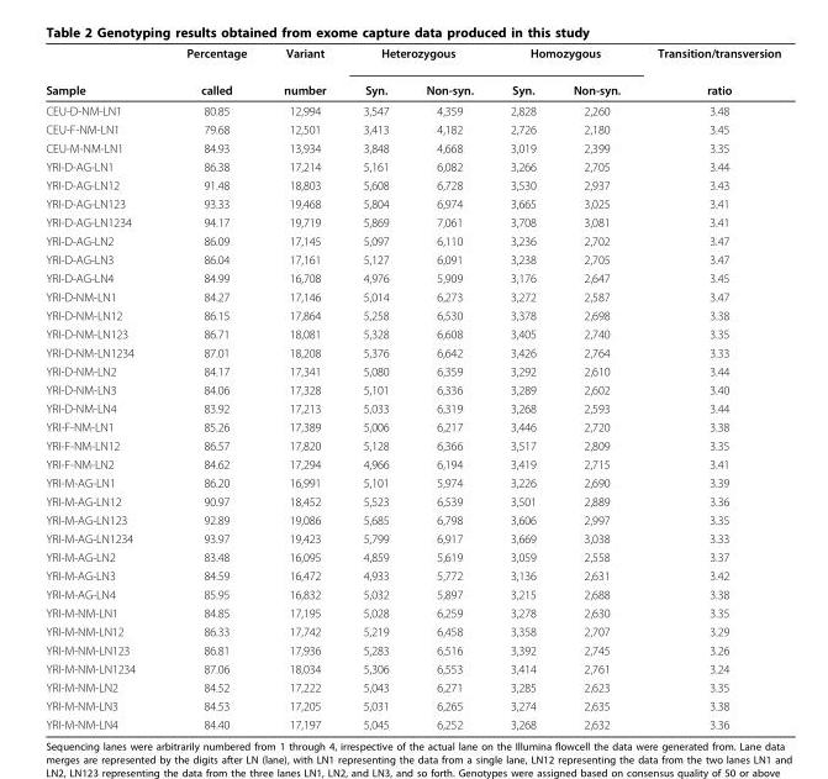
<table><thead><tr><td rowspan="2">Sample</td><td rowspan="2">Percentage called</td><td rowspan="2">Variant number</td><td colspan="2">Heterozygous</td><td colspan="2">Homozygous</td><td rowspan="2">Transition/transversion ratio</td></tr><tr><td>Syn.</td><td>Non-syn.</td><td>Syn.</td><td>Non-syn.</td></tr></thead><tbody><tr><td>CEU-D-NM-LN1</td><td>80.85</td><td>12,994</td><td>3,547</td><td>4,359</td><td>2,828</td><td>2,260</td><td>3.48</td></tr><tr><td>CEU-F-NM-LN1</td><td>79.68</td><td>12,501</td><td>3,413</td><td>4,182</td><td>2,726</td><td>2,180</td><td>3.45</td></tr><tr><td>CEU-M-NM-LN1</td><td>84.93</td><td>13,934</td><td>3,848</td><td>4,668</td><td>3,019</td><td>2,399</td><td>3.35</td></tr><tr><td>YRI-D-AG-LN1</td><td>86.38</td><td>17,214</td><td>5,161</td><td>6,082</td><td>3,266</td><td>2,705</td><td>3.44</td></tr><tr><td>YRI-D-AG-LN12</td><td>91.48</td><td>18,803</td><td>5,608</td><td>6,728</td><td>3,530</td><td>2,937</td><td>3.43</td></tr><tr><td>YRI-D-AG-LN123</td><td>93.33</td><td>19,468</td><td>5,804</td><td>6,974</td><td>3,665</td><td>3,025</td><td>3.41</td></tr><tr><td>YRI-D-AG-LN1234</td><td>94.17</td><td>19,719</td><td>5,869</td><td>7,061</td><td>3,708</td><td>3,081</td><td>3.41</td></tr><tr><td>YRI-D-AG-LN2</td><td>86.09</td><td>17,145</td><td>5,097</td><td>6,110</td><td>3,236</td><td>2,702</td><td>3.47</td></tr><tr><td>YRI-D-AG-LN3</td><td>86.04</td><td>17,161</td><td>5,127</td><td>6,091</td><td>3,238</td><td>2,705</td><td>3.47</td></tr><tr><td>YRI-D-AG-LN4</td><td>84.99</td><td>16,708</td><td>4,976</td><td>5,909</td><td>3,176</td><td>2,647</td><td>3.45</td></tr><tr><td>YRI-D-NM-LN1</td><td>84.27</td><td>17,146</td><td>5,014</td><td>6,273</td><td>3,272</td><td>2,587</td><td>3.47</td></tr><tr><td>YRI-D-NM-LN12</td><td>86.15</td><td>17,864</td><td>5,258</td><td>6,530</td><td>3,378</td><td>2,698</td><td>3.38</td></tr><tr><td>YRI-D-NM-LN123</td><td>86.71</td><td>18,081</td><td>5,328</td><td>6,608</td><td>3,405</td><td>2,740</td><td>3.35</td></tr><tr><td>YRI-D-NM-LN1234</td><td>87.01</td><td>18,208</td><td>5,376</td><td>6,642</td><td>3,426</td><td>2,764</td><td>3.33</td></tr><tr><td>YRI-D-NM-LN2</td><td>84.17</td><td>17,341</td><td>5,080</td><td>6,359</td><td>3,292</td><td>2,610</td><td>3.44</td></tr><tr><td>YRI-D-NM-LN3</td><td>84.06</td><td>17,328</td><td>5,101</td><td>6,336</td><td>3,289</td><td>2,602</td><td>3.40</td></tr><tr><td>YRI-D-NM-LN4</td><td>83.92</td><td>17,213</td><td>5,033</td><td>6,319</td><td>3,268</td><td>2,593</td><td>3.44</td></tr><tr><td>YRI-F-NM-LN1</td><td>85.26</td><td>17,389</td><td>5,006</td><td>6,217</td><td>3,446</td><td>2,720</td><td>3.38</td></tr><tr><td>YRI-F-NM-LN12</td><td>86.57</td><td>17,820</td><td>5,128</td><td>6,366</td><td>3,517</td><td>2,809</td><td>3.35</td></tr><tr><td>YRI-F-NM-LN2</td><td>84.62</td><td>17,294</td><td>4,966</td><td>6,194</td><td>3,419</td><td>2,715</td><td>3.41</td></tr><tr><td>YRI-M-AG-LN1</td><td>86.20</td><td>16,991</td><td>5,101</td><td>5,974</td><td>3,226</td><td>2,690</td><td>3.39</td></tr><tr><td>YRI-M-AG-LN12</td><td>90.97</td><td>18,452</td><td>5,523</td><td>6,539</td><td>3,501</td><td>2,889</td><td>3.36</td></tr><tr><td>YRI-M-AG-LN123</td><td>92.89</td><td>19,086</td><td>5,685</td><td>6,798</td><td>3,606</td><td>2,997</td><td>3.35</td></tr><tr><td>YRI-M-AG-LN1234</td><td>93.97</td><td>19,423</td><td>5,799</td><td>6,917</td><td>3,669</td><td>3,038</td><td>3.33</td></tr><tr><td>YRI-M-AG-LN2</td><td>83.48</td><td>16,095</td><td>4,859</td><td>5,619</td><td>3,059</td><td>2,558</td><td>3.37</td></tr><tr><td>YRI-M-AG-LN3</td><td>84.59</td><td>16,472</td><td>4,933</td><td>5,772</td><td>3,136</td><td>2,631</td><td>3.42</td></tr><tr><td>YRI-M-AG-LN4</td><td>85.95</td><td>16,832</td><td>5,032</td><td>5,897</td><td>3,215</td><td>2,688</td><td>3.38</td></tr><tr><td>YRI-M-NM-LN1</td><td>84.85</td><td>17,195</td><td>5,028</td><td>6,259</td><td>3,278</td><td>2,630</td><td>3.35</td></tr><tr><td>YRI-M-NM-LN12</td><td>86.33</td><td>17,742</td><td>5,219</td><td>6,458</td><td>3,358</td><td>2,707</td><td>3.29</td></tr><tr><td>YRI-M-NM-LN123</td><td>86.81</td><td>17,936</td><td>5,283</td><td>6,516</td><td>3,392</td><td>2,745</td><td>3.26</td></tr><tr><td>YRI-M-NM-LN1234</td><td>87.06</td><td>18,034</td><td>5,306</td><td>6,553</td><td>3,414</td><td>2,761</td><td>3.24</td></tr><tr><td>YRI-M-NM-LN2</td><td>84.52</td><td>17,222</td><td>5,043</td><td>6,271</td><td>3,285</td><td>2,623</td><td>3.35</td></tr><tr><td>YRI-M-NM-LN3</td><td>84.53</td><td>17,205</td><td>5,031</td><td>6,265</td><td>3,274</td><td>2,635</td><td>3.38</td></tr><tr><td>YRI-M-NM-LN4</td><td>84.40</td><td>17,197</td><td>5,045</td><td>6,252</td><td>3,268</td><td>2,632</td><td>3.36</td></tr></tbody></table>